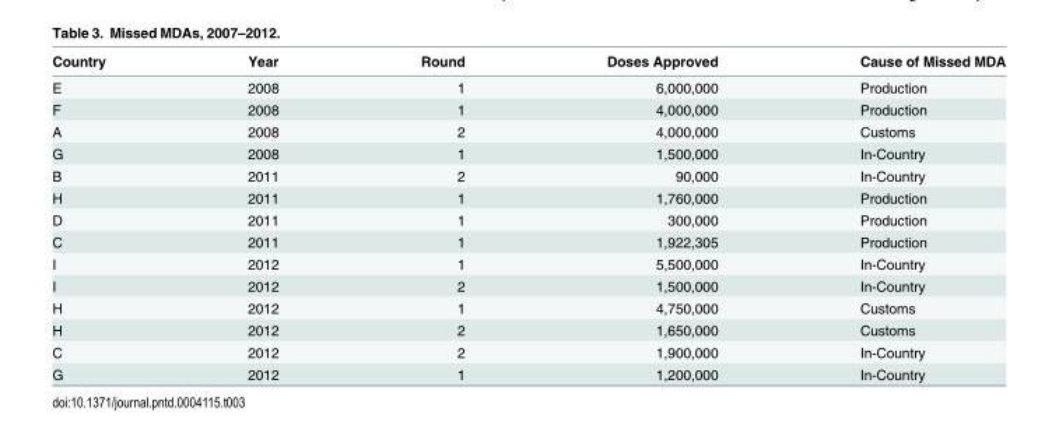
<table><thead><tr><td>Country</td><td>Year</td><td>Round</td><td>Doses Approved</td><td>Cause of Missed MDA</td></tr></thead><tbody><tr><td>E</td><td>2008</td><td>1</td><td>6,000,000</td><td>Production</td></tr><tr><td>F</td><td>2008</td><td>1</td><td>4,000,000</td><td>Production</td></tr><tr><td>A</td><td>2008</td><td>2</td><td>4,000,000</td><td>Customs</td></tr><tr><td>G</td><td>2008</td><td>1</td><td>1,500,000</td><td>In-Country</td></tr><tr><td>B</td><td>2011</td><td>2</td><td>90,000</td><td>In-Country</td></tr><tr><td>H</td><td>2011</td><td>1</td><td>1,760,000</td><td>Production</td></tr><tr><td>D</td><td>2011</td><td>1</td><td>300,000</td><td>Production</td></tr><tr><td>C</td><td>2011</td><td>1</td><td>1,922,305</td><td>Production</td></tr><tr><td>I</td><td>2012</td><td>1</td><td>5,500,000</td><td>In-Country</td></tr><tr><td>I</td><td>2012</td><td>2</td><td>1,500,000</td><td>In-Country</td></tr><tr><td>H</td><td>2012</td><td>1</td><td>4,750,000</td><td>Customs</td></tr><tr><td>H</td><td>2012</td><td>2</td><td>1,650,000</td><td>Customs</td></tr><tr><td>C</td><td>2012</td><td>2</td><td>1,900,000</td><td>In-Country</td></tr><tr><td>G</td><td>2012</td><td>1</td><td>1,200,000</td><td>In-Country</td></tr></tbody></table>